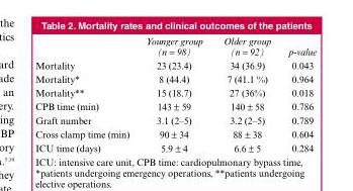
<table><thead><tr><td></td><td>Younger group (n = 98)</td><td>Older group (n = 92)</td><td>p-value</td></tr></thead><tbody><tr><td>Mortality</td><td>23 (23.4)</td><td>34 (36.9)</td><td>0.043</td></tr><tr><td>Mortality*</td><td>8 (44.4)</td><td>7 (41.1 %)</td><td>0.964</td></tr><tr><td>Mortality**</td><td>15 (18.7)</td><td>27 (36%)</td><td>0.018</td></tr><tr><td>CPB time (min)</td><td>143 ± 59</td><td>140 ± 58</td><td>0.786</td></tr><tr><td>Graft number</td><td>3.1 (2–5)</td><td>3.2 (2–5)</td><td>0.789</td></tr><tr><td>Cross clamp time (min)</td><td>90 ± 34</td><td>88 ± 38</td><td>0.604</td></tr><tr><td>ICU time (days)</td><td>5.9 ± 4</td><td>6.6 ± 5</td><td>0.284</td></tr></tbody></table>